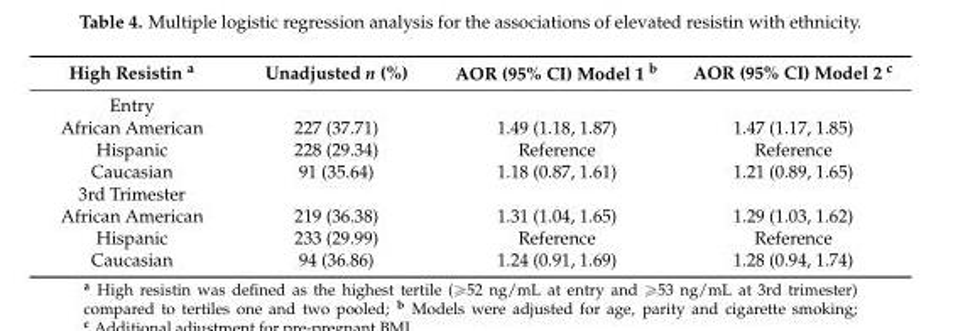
<table><thead><tr><td>High Resistin <sup>a</sup></td><td>Unadjusted n (%)</td><td>AOR (95% CI) Model 1 <sup>b</sup></td><td>AOR (95% CI) Model 2 <sup>c</sup></td></tr></thead><tbody><tr><td colspan="4">Entry</td></tr><tr><td>African American</td><td>227 (37.71)</td><td>1.49 (1.18, 1.87)</td><td>1.47 (1.17, 1.85)</td></tr><tr><td>Hispanic</td><td>228 (29.34)</td><td>Reference</td><td>Reference</td></tr><tr><td>Caucasian</td><td>91 (35.64)</td><td>1.18 (0.87, 1.61)</td><td>1.21 (0.89, 1.65)</td></tr><tr><td colspan="4">3rd Trimester</td></tr><tr><td>African American</td><td>219 (36.38)</td><td>1.31 (1.04, 1.65)</td><td>1.29 (1.03, 1.62)</td></tr><tr><td>Hispanic</td><td>233 (29.99)</td><td>Reference</td><td>Reference</td></tr><tr><td>Caucasian</td><td>94 (36.86)</td><td>1.24 (0.91, 1.69)</td><td>1.28 (0.94, 1.74)</td></tr></tbody></table>